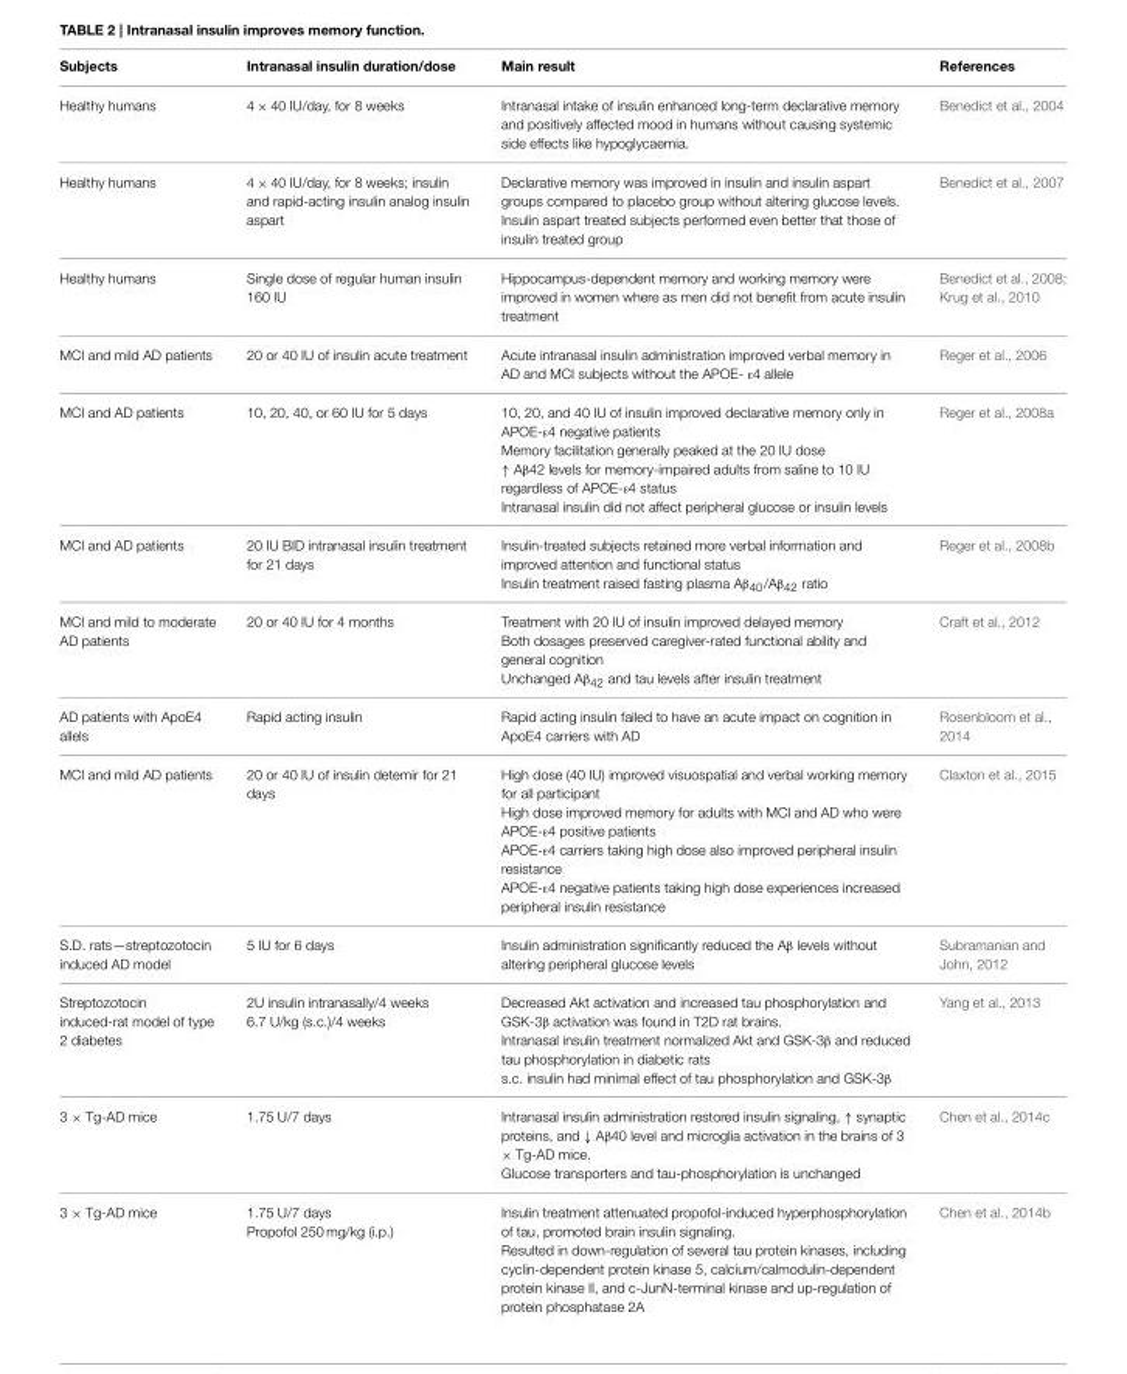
<table><thead><tr><td>Subjects</td><td>Intranasal insulin duration/dose</td><td>Main result</td><td>References</td></tr></thead><tbody><tr><td>Healthy humans</td><td>4 × 40 IU/day, for 8 weeks</td><td>Intranasal intake of insulin enhanced long-term declarative memory and positively affected mood in humans without causing systemic side effects like hypoglycaemia.</td><td>Benedict et al., 2004</td></tr><tr><td>Healthy humans</td><td>4 × 40 IU/day, for 8 weeks; insulin and rapid-acting insulin analog insulin aspart</td><td>Declarative memory was improved in insulin and insulin aspart groups compared to placebo group without altering glucose levels. Insulin aspart treated subjects performed even better that those of insulin treated group</td><td>Benedict et al., 2007</td></tr><tr><td>Healthy humans</td><td>Single dose of regular human insulin 160 IU</td><td>Hippocampus-dependent memory and working memory were improved in women where as men did not benefit from acute insulin treatment</td><td>Benedict et al., 2008; Krug et al., 2010</td></tr><tr><td>MCI and mild AD patients</td><td>20 or 40 IU of insulin acute treatment</td><td>Acute intranasal insulin administration improved verbal memory in AD and MCI subjects without the APOE- ε4 allele</td><td>Reger et al., 2006</td></tr><tr><td>MCI and AD patients</td><td>10, 20, 40, or 60 IU for 5 days</td><td>10, 20, and 40 IU of insulin improved declarative memory only in APOE-ε4 negative patients Memory facilitation generally peaked at the 20 IU dose ↑ Aβ42 levels for memory-impaired adults from saline to 10 IU regardless of APOE-ε4 status Intranasal insulin did not affect peripheral glucose or insulin levels</td><td>Reger et al., 2008a</td></tr><tr><td>MCI and AD patients</td><td>20 IU BID intranasal insulin treatment for 21 days</td><td>Insulin-treated subjects retained more verbal information and improved attention and functional status Insulin treatment raised fasting plasma Aβ<sub>40</sub>/Aβ<sub>42</sub> ratio</td><td>Reger et al., 2008b</td></tr><tr><td>MCI and mild to moderate AD patients</td><td>20 or 40 IU for 4 months</td><td>Treatment with 20 IU of insulin improved delayed memory Both dosages preserved caregiver-rated functional ability and general cognition Unchanged Aβ<sub>42</sub> and tau levels after insulin treatment</td><td>Craft et al., 2012</td></tr><tr><td>AD patients with ApoE4 allels</td><td>Rapid acting insulin</td><td>Rapid acting insulin failed to have an acute impact on cognition in ApoE4 carriers with AD</td><td>Rosenbloom et al., 2014</td></tr><tr><td>MCI and mild AD patients</td><td>20 or 40 IU of insulin detemir for 21 days</td><td>High dose (40 IU) improved visuospatial and verbal working memory for all participant High dose improved memory for adults with MCI and AD who were APOE-ε4 positive patients APOE-ε4 carriers taking high dose also improved peripheral insulin resistance APOE-ε4 negative patients taking high dose experiences increased peripheral insulin resistance</td><td>Claxton et al., 2015</td></tr><tr><td>S.D. rats—streptozotocin induced AD model</td><td>5 IU for 6 days</td><td>Insulin administration significantly reduced the Aβ levels without altering peripheral glucose levels</td><td>Subramanian and John, 2012</td></tr><tr><td>Streptozotocin induced-rat model of type 2 diabetes</td><td>2U insulin intranasally/4 weeks 6.7 U/kg (s.c.)/4 weeks</td><td>Decreased Akt activation and increased tau phosphorylation and GSK-3β activation was found in T2D rat brains. Intranasal insulin treatment normalized Akt and GSK-3β and reduced tau phosphorylation in diabetic rats s.c. insulin had minimal effect of tau phosphorylation and GSK-3β</td><td>Yang et al., 2013</td></tr><tr><td>3 × Tg-AD mice</td><td>1.75 U/7 days</td><td>Intranasal insulin administration restored insulin signaling, ↑ synaptic proteins, and ↓ Aβ40 level and microglia activation in the brains of 3 × Tg-AD mice. Glucose transporters and tau-phosphorylation is unchanged</td><td>Chen et al., 2014c</td></tr><tr><td>3 × Tg-AD mice</td><td>1.75 U/7 days Propofol 250 mg/kg (i.p.)</td><td>Insulin treatment attenuated propofol-induced hyperphosphorylation of tau, promoted brain insulin signaling. Resulted in down-regulation of several tau protein kinases, including cyclin-dependent protein kinase 5, calcium/calmodulin-dependent protein kinase II, and c-JunN-terminal kinase and up-regulation of protein phosphatase 2A</td><td>Chen et al., 2014b</td></tr></tbody></table>